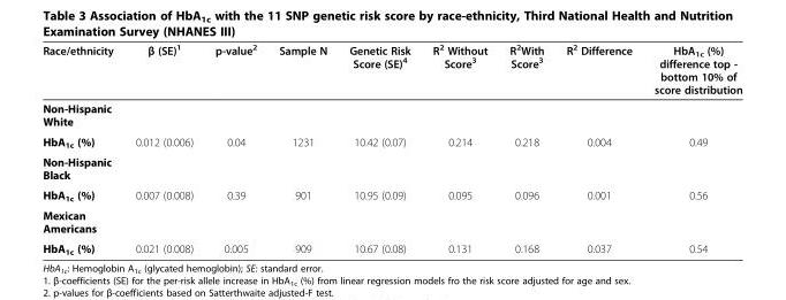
<table><thead><tr><td>Race/ethnicity</td><td>β (SE)<sup>1</sup></td><td>p-value<sup>2</sup></td><td>Sample N</td><td>Genetic Risk Score (SE)<sup>4</sup></td><td>R2 Without Score3</td><td>R<sup>2</sup>With Score<sup>3</sup></td><td>R<sup>2</sup> Difference</td><td>HbA<sub>1c</sub> (%) difference top - bottom 10% of score distribution</td></tr></thead><tbody><tr><td colspan="9">Non-Hispanic White</td></tr><tr><td>HbA<sub>1c</sub> (%)</td><td>0.012 (0.006)</td><td>0.04</td><td>1231</td><td>10.42 (0.07)</td><td>0.214</td><td>0.218</td><td>0.004</td><td>0.49</td></tr><tr><td colspan="9">Non-Hispanic Black</td></tr><tr><td>HbA<sub>1c</sub> (%)</td><td>0.007 (0.008)</td><td>0.39</td><td>901</td><td>10.95 (0.09)</td><td>0.095</td><td>0.096</td><td>0.001</td><td>0.56</td></tr><tr><td colspan="9">Mexican Americans</td></tr><tr><td>HbA<sub>1c</sub> (%)</td><td>0.021 (0.008)</td><td>0.005</td><td>909</td><td>10.67 (0.08)</td><td>0.131</td><td>0.168</td><td>0.037</td><td>0.54</td></tr></tbody></table>